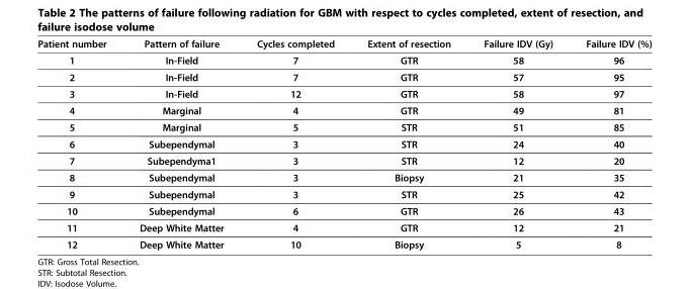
<table><thead><tr><td>Patient number</td><td>Pattern of failure</td><td>Cycles completed</td><td>Extent of resection</td><td>Failure IDV (Gy)</td><td>Failure IDV (%)</td></tr></thead><tbody><tr><td>1</td><td>In-Field</td><td>7</td><td>GTR</td><td>58</td><td>96</td></tr><tr><td>2</td><td>In-Field</td><td>7</td><td>GTR</td><td>57</td><td>95</td></tr><tr><td>3</td><td>In-Field</td><td>12</td><td>GTR</td><td>58</td><td>97</td></tr><tr><td>4</td><td>Marginal</td><td>4</td><td>GTR</td><td>49</td><td>81</td></tr><tr><td>5</td><td>Marginal</td><td>5</td><td>STR</td><td>51</td><td>85</td></tr><tr><td>6</td><td>Subependymal</td><td>3</td><td>STR</td><td>24</td><td>40</td></tr><tr><td>7</td><td>Subependyma1</td><td>3</td><td>STR</td><td>12</td><td>20</td></tr><tr><td>8</td><td>Subependymal</td><td>3</td><td>Biopsy</td><td>21</td><td>35</td></tr><tr><td>9</td><td>Subependymal</td><td>3</td><td>STR</td><td>25</td><td>42</td></tr><tr><td>10</td><td>Subependymal</td><td>6</td><td>GTR</td><td>26</td><td>43</td></tr><tr><td>11</td><td>Deep White Matter</td><td>4</td><td>GTR</td><td>12</td><td>21</td></tr><tr><td>12</td><td>Deep White Matter</td><td>10</td><td>Biopsy</td><td>5</td><td>8</td></tr></tbody></table>